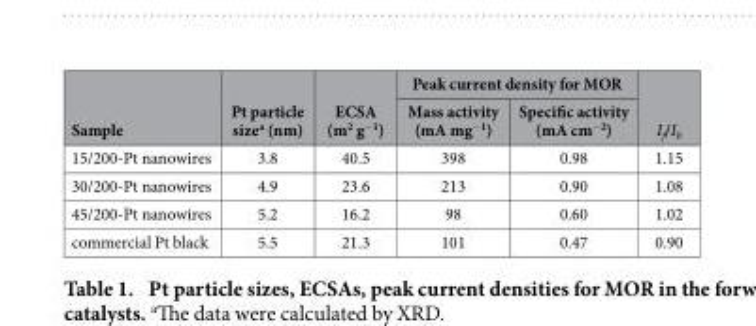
<table><thead><tr><td rowspan="2">Sample</td><td rowspan="2">Pt particle size<sup>a</sup> (nm)</td><td rowspan="2">ECSA (m<sup>2</sup> g<sup>−1</sup>)</td><td colspan="2">Peak current density for MOR</td><td rowspan="2">I<sub>f</sub>/I<sub>b</sub></td></tr><tr><td>Mass activity (mA mg<sup>−1</sup>)</td><td>Specific activity (mA cm<sup>−2</sup>)</td></tr></thead><tbody><tr><td>15/200-Pt nanowires</td><td>3.8</td><td>40.5</td><td>398</td><td>0.98</td><td>1.15</td></tr><tr><td>30/200-Pt nanowires</td><td>4.9</td><td>23.6</td><td>213</td><td>0.90</td><td>1.08</td></tr><tr><td>45/200-Pt nanowires</td><td>5.2</td><td>16.2</td><td>98</td><td>0.60</td><td>1.02</td></tr><tr><td>commercial Pt black</td><td>5.5</td><td>21.3</td><td>101</td><td>0.47</td><td>0.90</td></tr></tbody></table>